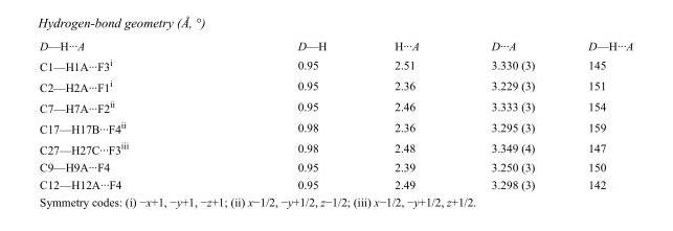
<table><tbody><tr><td>D—H···A</td><td>D—H</td><td>H···A</td><td>D···A</td><td>D—H···A</td></tr><tr><td>C1—H1A···F3<sup>i</sup></td><td>0.95</td><td>2.51</td><td>3.330 (3)</td><td>145</td></tr><tr><td>C2—H2A···F1<sup>i</sup></td><td>0.95</td><td>2.36</td><td>3.229 (3)</td><td>151</td></tr><tr><td>C7—H7A···F2<sup>ii</sup></td><td>0.95</td><td>2.46</td><td>3.333 (3)</td><td>154</td></tr><tr><td>C17—H17B···F4<sup>ii</sup></td><td>0.98</td><td>2.36</td><td>3.295 (3)</td><td>159</td></tr><tr><td>C27—H27C···F3<sup>iii</sup></td><td>0.98</td><td>2.48</td><td>3.349 (4)</td><td>147</td></tr><tr><td>C9—H9A···F4</td><td>0.95</td><td>2.39</td><td>3.250 (3)</td><td>150</td></tr><tr><td>C12—H12A···F4</td><td>0.95</td><td>2.49</td><td>3.298 (3)</td><td>142</td></tr></tbody></table>